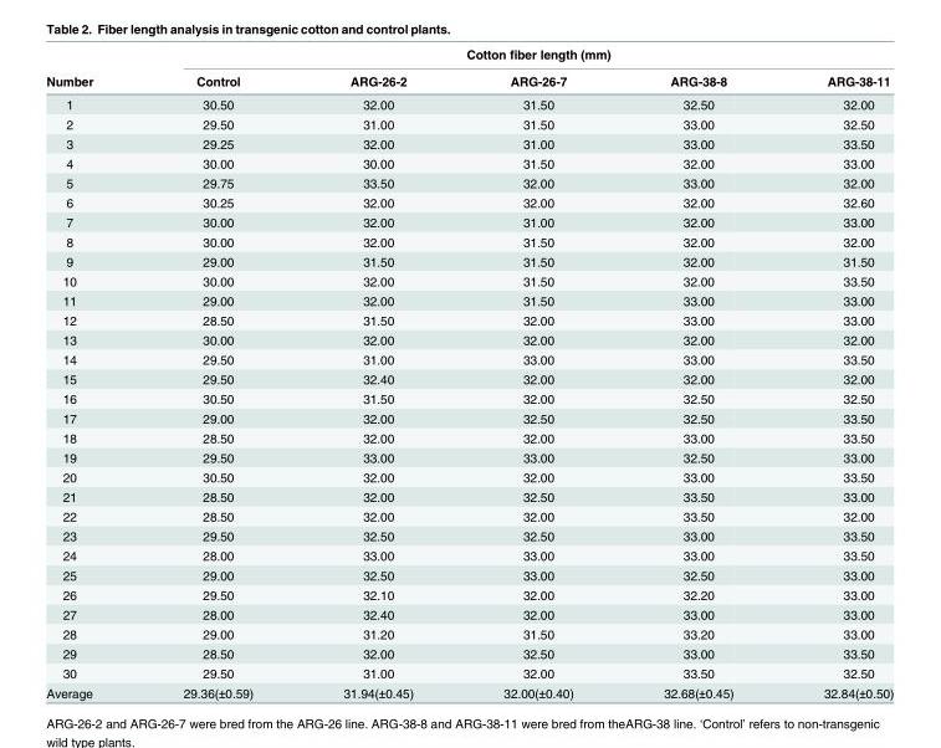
<table><thead><tr><td rowspan="2">Number</td><td colspan="5">Cotton fiber length (mm)</td></tr><tr><td>Control</td><td>ARG-26-2</td><td>ARG-26-7</td><td>ARG-38-8</td><td>ARG-38-11</td></tr></thead><tbody><tr><td>1</td><td>30.50</td><td>32.00</td><td>31.50</td><td>32.50</td><td>32.00</td></tr><tr><td>2</td><td>29.50</td><td>31.00</td><td>31.50</td><td>33.00</td><td>32.50</td></tr><tr><td>3</td><td>29.25</td><td>32.00</td><td>31.00</td><td>33.00</td><td>33.50</td></tr><tr><td>4</td><td>30.00</td><td>30.00</td><td>31.50</td><td>32.00</td><td>33.00</td></tr><tr><td>5</td><td>29.75</td><td>33.50</td><td>32.00</td><td>33.00</td><td>32.00</td></tr><tr><td>6</td><td>30.25</td><td>32.00</td><td>32.00</td><td>32.00</td><td>32.60</td></tr><tr><td>7</td><td>30.00</td><td>32.00</td><td>31.00</td><td>32.00</td><td>33.00</td></tr><tr><td>8</td><td>30.00</td><td>32.00</td><td>31.50</td><td>32.00</td><td>32.00</td></tr><tr><td>9</td><td>29.00</td><td>31.50</td><td>31.50</td><td>32.00</td><td>31.50</td></tr><tr><td>10</td><td>30.00</td><td>32.00</td><td>31.50</td><td>32.00</td><td>33.50</td></tr><tr><td>11</td><td>29.00</td><td>32.00</td><td>31.50</td><td>33.00</td><td>33.00</td></tr><tr><td>12</td><td>28.50</td><td>31.50</td><td>32.00</td><td>33.00</td><td>33.00</td></tr><tr><td>13</td><td>30.00</td><td>32.00</td><td>32.00</td><td>32.00</td><td>32.00</td></tr><tr><td>14</td><td>29.50</td><td>31.00</td><td>33.00</td><td>33.00</td><td>33.50</td></tr><tr><td>15</td><td>29.50</td><td>32.40</td><td>32.00</td><td>32.00</td><td>32.00</td></tr><tr><td>16</td><td>30.50</td><td>31.50</td><td>32.00</td><td>32.50</td><td>32.50</td></tr><tr><td>17</td><td>29.00</td><td>32.00</td><td>32.50</td><td>32.50</td><td>33.50</td></tr><tr><td>18</td><td>28.50</td><td>32.00</td><td>32.00</td><td>33.00</td><td>33.50</td></tr><tr><td>19</td><td>29.50</td><td>33.00</td><td>33.00</td><td>32.50</td><td>33.00</td></tr><tr><td>20</td><td>30.50</td><td>32.00</td><td>32.00</td><td>33.00</td><td>33.50</td></tr><tr><td>21</td><td>28.50</td><td>32.00</td><td>32.50</td><td>33.50</td><td>33.00</td></tr><tr><td>22</td><td>28.50</td><td>32.00</td><td>32.00</td><td>33.50</td><td>32.00</td></tr><tr><td>23</td><td>29.50</td><td>32.50</td><td>32.50</td><td>33.00</td><td>33.50</td></tr><tr><td>24</td><td>28.00</td><td>33.00</td><td>33.00</td><td>33.00</td><td>33.50</td></tr><tr><td>25</td><td>29.00</td><td>32.50</td><td>33.00</td><td>32.50</td><td>33.00</td></tr><tr><td>26</td><td>29.50</td><td>32.10</td><td>32.00</td><td>32.20</td><td>33.00</td></tr><tr><td>27</td><td>28.00</td><td>32.40</td><td>32.00</td><td>33.00</td><td>33.00</td></tr><tr><td>28</td><td>29.00</td><td>31.20</td><td>31.50</td><td>33.20</td><td>33.00</td></tr><tr><td>29</td><td>28.50</td><td>32.00</td><td>32.50</td><td>33.00</td><td>33.50</td></tr><tr><td>30</td><td>29.50</td><td>31.00</td><td>32.00</td><td>33.50</td><td>32.50</td></tr><tr><td>Average</td><td>29.36(±0.59)</td><td>31.94(±0.45)</td><td>32.00(±0.40)</td><td>32.68(±0.45)</td><td>32.84(±0.50)</td></tr></tbody></table>